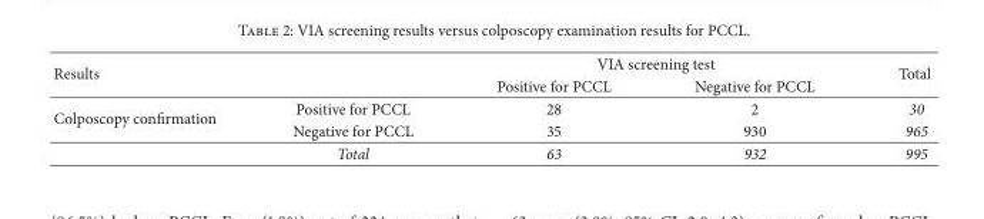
<table><thead><tr><td rowspan="2">Results</td><td rowspan="2"></td><td colspan="2">VIA screening test</td><td rowspan="2">Total</td></tr><tr><td>Positive for PCCL</td><td>Negative for PCCL</td></tr></thead><tbody><tr><td rowspan="3">Colposcopy confirmation</td><td>Positive for PCCL</td><td>28</td><td>2</td><td>30</td></tr><tr><td>Negative for PCCL</td><td>35</td><td>930</td><td>965</td></tr><tr><td>Total</td><td>63</td><td>932</td><td>995</td></tr></tbody></table>